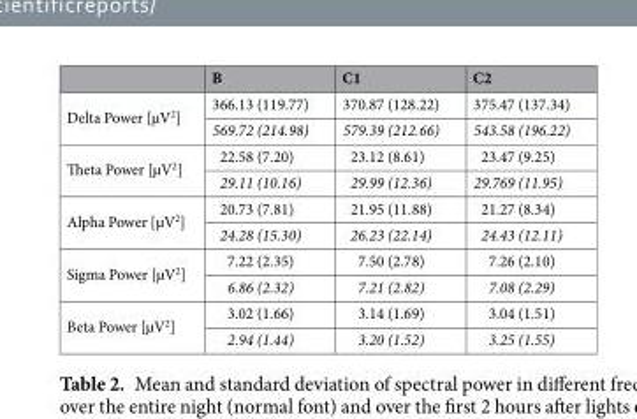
<table><thead><tr><td></td><td>B</td><td>C1</td><td>C2</td></tr></thead><tbody><tr><td rowspan="2">Delta Power [µV<sup>2</sup>]</td><td>366.13 (119.77)</td><td>370.87 (128.22)</td><td>375.47 (137.34)</td></tr><tr><td>569.72 (214.98)</td><td>579.39 (212.66)</td><td>543.58 (196.22)</td></tr><tr><td rowspan="2">Theta Power [µV<sup>2</sup>]</td><td>22.58 (7.20)</td><td>23.12 (8.61)</td><td>23.47 (9.25)</td></tr><tr><td>29.11 (10.16)</td><td>29.99 (12.36)</td><td>29.769 (11.95)</td></tr><tr><td rowspan="2">Alpha Power [µV<sup>2</sup>]</td><td>20.73 (7.81)</td><td>21.95 (11.88)</td><td>21.27 (8.34)</td></tr><tr><td>24.28 (15.30)</td><td>26.23 (22.14)</td><td>24.43 (12.11)</td></tr><tr><td rowspan="2">Sigma Power [µV<sup>2</sup>]</td><td>7.22 (2.35)</td><td>7.50 (2.78)</td><td>7.26 (2.10)</td></tr><tr><td>6.86 (2.32)</td><td>7.21 (2.82)</td><td>7.08 (2.29)</td></tr><tr><td rowspan="2">Beta Power [µV<sup>2</sup>]</td><td>3.02 (1.66)</td><td>3.14 (1.69)</td><td>3.04 (1.51)</td></tr><tr><td>2.94 (1.44)</td><td>3.20 (1.52)</td><td>3.25 (1.55)</td></tr></tbody></table>